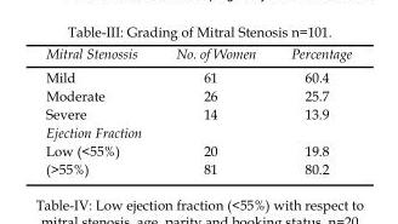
<table><thead><tr><td>Mitral Stenossis</td><td>No. of Women</td><td>Percentage</td></tr></thead><tbody><tr><td>Mild</td><td>61</td><td>60.4</td></tr><tr><td>Moderate</td><td>26</td><td>25.7</td></tr><tr><td>Severe</td><td>14</td><td>13.9</td></tr><tr><td colspan="3">Ejection Fraction</td></tr><tr><td>Low (&lt;55%)</td><td>20</td><td>19.8</td></tr><tr><td>(&gt;55%)</td><td>81</td><td>80.2</td></tr></tbody></table>